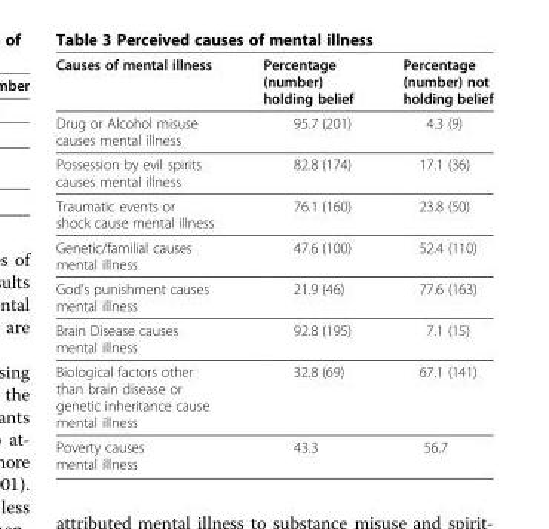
<table><thead><tr><td>Causes of mental illness</td><td>Percentage (number) holding belief</td><td>Percentage (number) not holding belief</td></tr></thead><tbody><tr><td>Drug or Alcohol misuse causes mental illness</td><td>95.7 (201)</td><td>4.3 (9)</td></tr><tr><td>Possession by evil spirits causes mental illness</td><td>82.8 (174)</td><td>17.1 (36)</td></tr><tr><td>Traumatic events or shock cause mental illness</td><td>76.1 (160)</td><td>23.8 (50)</td></tr><tr><td>Genetic/familial causes mental illness</td><td>47.6 (100)</td><td>52.4 (110)</td></tr><tr><td>God’s punishment causes mental illness</td><td>21.9 (46)</td><td>77.6 (163)</td></tr><tr><td>Brain Disease causes mental illness</td><td>92.8 (195)</td><td>7.1 (15)</td></tr><tr><td>Biological factors other than brain disease or genetic inheritance cause mental illness</td><td>32.8 (69)</td><td>67.1 (141)</td></tr><tr><td>Poverty causes mental illness</td><td>43.3</td><td>56.7</td></tr></tbody></table>